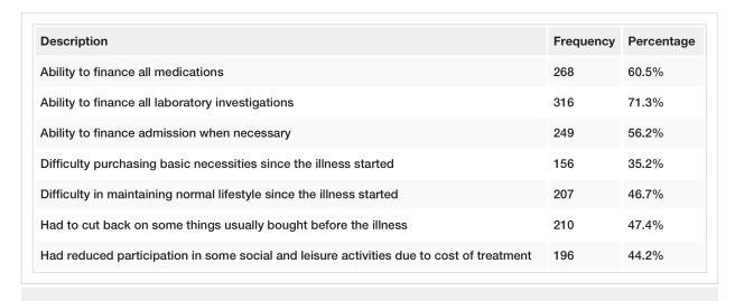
<table><tbody><tr><td>Description</td><td>Frequency</td><td>Percentage</td></tr><tr><td>Ability to finance all medications</td><td>268</td><td>60.5%</td></tr><tr><td>Ability to finance all laboratory investigations</td><td>316</td><td>71.3%</td></tr><tr><td>Ability to finance admission when necessary</td><td>249</td><td>56.2%</td></tr><tr><td>Difficulty purchasing basic necessities since the illness started</td><td>156</td><td>35.2%</td></tr><tr><td>Difficulty in maintaining normal lifestyle since the illness started</td><td>207</td><td>46.7%</td></tr><tr><td>Had to cut back on some things usually bought before the illness</td><td>210</td><td>47.4%</td></tr><tr><td>Had reduced participation in some social and leisure activities due to cost of treatment</td><td>196</td><td>44.2%</td></tr></tbody></table>